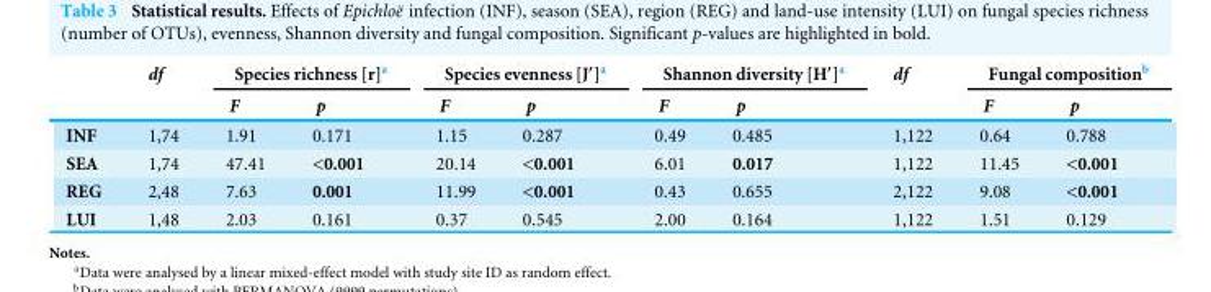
<table><thead><tr><td rowspan="2"></td><td rowspan="2">df</td><td colspan="2">Species richness [r]<sup>a</sup></td><td colspan="2">Species evenness [J′]<sup>a</sup></td><td colspan="2">Shannon diversity [H′]<sup>a</sup></td><td rowspan="2">df</td><td colspan="2">Fungal composition<sup>b</sup></td></tr><tr><td>F</td><td>p</td><td>F</td><td>p</td><td>F</td><td>p</td><td>F</td><td>p</td></tr></thead><tbody><tr><td>;INF</td><td>1,74</td><td>1.91</td><td>0.171</td><td>1.15</td><td>0.287</td><td>0.49</td><td>0.485</td><td>1,122</td><td>0.64</td><td>0.788</td></tr><tr><td>;SEA</td><td>1,74</td><td>47.41</td><td>&lt;0.001</td><td>20.14</td><td>&lt;0.001</td><td>6.01</td><td>0.017</td><td>1,122</td><td>11.45</td><td>&lt;0.001</td></tr><tr><td>;REG</td><td>2,48</td><td>7.63</td><td>0.001</td><td>11.99</td><td>&lt;0.001</td><td>0.43</td><td>0.655</td><td>2,122</td><td>9.08</td><td>&lt;0.001</td></tr><tr><td>;LUI</td><td>1,48</td><td>2.03</td><td>0.161</td><td>0.37</td><td>0.545</td><td>2.00</td><td>0.164</td><td>1,122</td><td>1.51</td><td>0.129</td></tr></tbody></table>